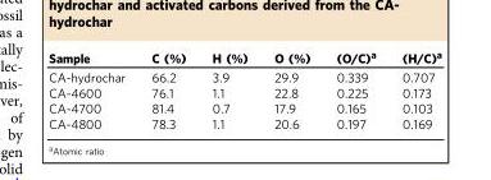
<table><thead><tr><td>Sample</td><td>C (%)</td><td>H (%)</td><td>O (%)</td><td>(O/C)<sup>a</sup></td><td>(H/C)<sup>a</sup></td></tr></thead><tbody><tr><td>CA-hydrochar</td><td>66.2</td><td>3.9</td><td>29.9</td><td>0.339</td><td>0.707</td></tr><tr><td>CA-4600</td><td>76.1</td><td>1.1</td><td>22.8</td><td>0.225</td><td>0.173</td></tr><tr><td>CA-4700</td><td>81.4</td><td>0.7</td><td>17.9</td><td>0.165</td><td>0.103</td></tr><tr><td>CA-4800</td><td>78.3</td><td>1.1</td><td>20.6</td><td>0.197</td><td>0.169</td></tr></tbody></table>